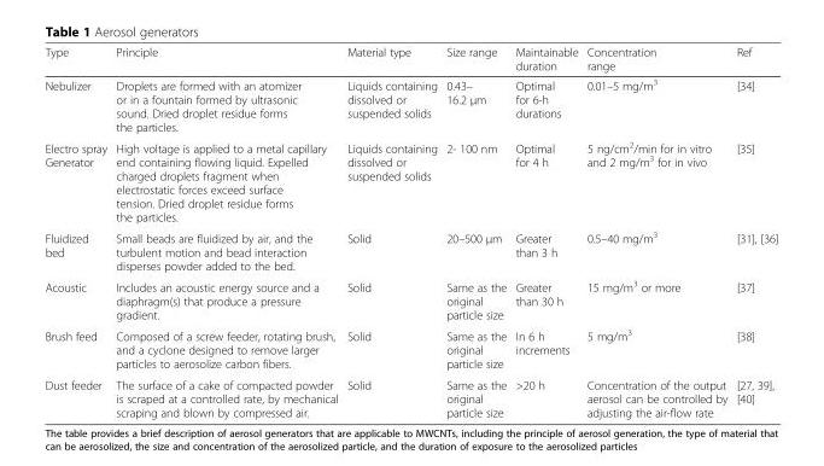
<table><thead><tr><td>Type</td><td>Principle</td><td>Material type</td><td>Size range</td><td>Maintainable duration</td><td>Concentration range</td><td>Ref</td></tr></thead><tbody><tr><td>Nebulizer</td><td>Droplets are formed with an atomizer or in a fountain formed by ultrasonic sound. Dried droplet residue forms the particles.</td><td>Liquids containing dissolved or suspended solids</td><td>0.43– 16.2 μm</td><td>Optimal for 6-h durations</td><td>0.01–5 mg/m<sup>3</sup></td><td>[34]</td></tr><tr><td>Electro spray Generator</td><td>High voltage is applied to a metal capillary end containing flowing liquid. Expelled charged droplets fragment when electrostatic forces exceed surface tension. Dried droplet residue forms the particles.</td><td>Liquids containing dissolved or suspended solids</td><td>2- 100 nm</td><td>Optimal for 4 h</td><td>5 ng/cm<sup>2</sup>/min for in vitro and 2 mg/m<sup>3</sup> for in vivo</td><td>[35]</td></tr><tr><td>Fluidized bed</td><td>Small beads are fluidized by air, and the turbulent motion and bead interaction disperses powder added to the bed.</td><td>Solid</td><td>20–500 μm</td><td>Greater than 3 h</td><td>0.5–40 mg/m<sup>3</sup></td><td>[31], [36]</td></tr><tr><td>Acoustic</td><td>Includes an acoustic energy source and a diaphragm(s) that produce a pressure gradient.</td><td>Solid</td><td>Same as the original particle size</td><td>Greater than 30 h</td><td>15 mg/m<sup>3</sup> or more</td><td>[37]</td></tr><tr><td>Brush feed</td><td>Composed of a screw feeder, rotating brush, and a cyclone designed to remove larger particles to aerosolize carbon fibers.</td><td>Solid</td><td>Same as the original particle size</td><td>In 6 h increments</td><td>5 mg/m<sup>3</sup></td><td>[38]</td></tr><tr><td>Dust feeder</td><td>The surface of a cake of compacted powder is scraped at a controlled rate, by mechanical scraping and blown by compressed air.</td><td>Solid</td><td>Same as the original particle size</td><td>&gt;20 h</td><td>Concentration of the output aerosol can be controlled by adjusting the air-flow rate</td><td>[27, 39], [40]</td></tr></tbody></table>